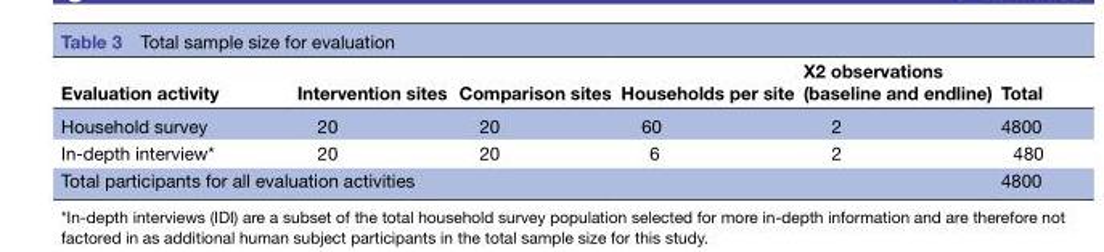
<table><thead><tr><td>Evaluation activity</td><td>Intervention sites</td><td>Comparison sites</td><td>Households per site</td><td>X2 observations (baseline and endline)</td><td>Total</td></tr></thead><tbody><tr><td>Household survey</td><td>20</td><td>20</td><td>60</td><td>2</td><td>4800</td></tr><tr><td>In-depth interview*</td><td>20</td><td>20</td><td>6</td><td>2</td><td>480</td></tr><tr><td colspan="5">Total participants for all evaluation activities</td><td>4800</td></tr></tbody></table>